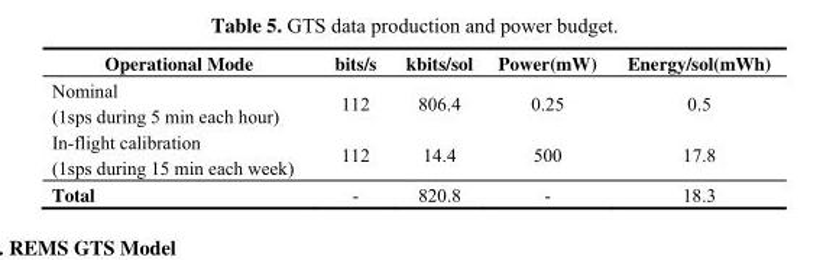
<table><thead><tr><td>Operational Mode</td><td>bits/s</td><td>kbits/sol</td><td>Power(mW)</td><td>Energy/sol(mWh)</td></tr></thead><tbody><tr><td>Nominal (1sps during 5 min each hour)</td><td>112</td><td>806.4</td><td>0.25</td><td>0.5</td></tr><tr><td>In-flight calibration (1sps during 15 min each week)</td><td>112</td><td>14.4</td><td>500</td><td>17.8</td></tr><tr><td>Total</td><td>-</td><td>820.8</td><td>-</td><td>18.3</td></tr></tbody></table>